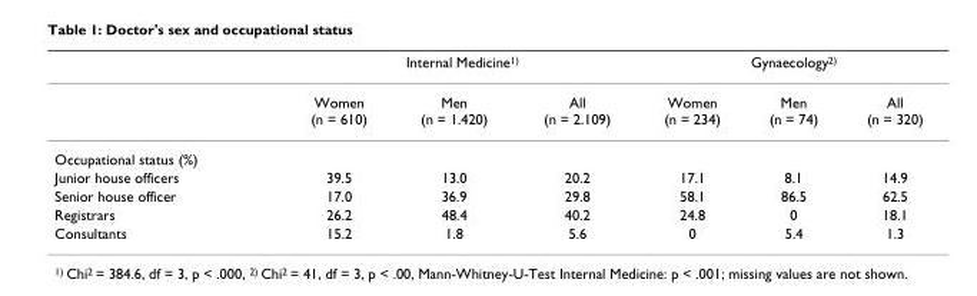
<table><thead><tr><td rowspan="2"></td><td colspan="3">Internal Medicine<sup>1)</sup></td><td colspan="3">Gynaecology<sup>2)</sup></td></tr><tr><td>Women (n = 610)</td><td>Men (n = 1.420)</td><td>All (n = 2.109)</td><td>Women (n = 234)</td><td>Men (n = 74)</td><td>All (n = 320)</td></tr></thead><tbody><tr><td colspan="7">Occupational status (%)</td></tr><tr><td>Junior house officers</td><td>39.5</td><td>13.0</td><td>20.2</td><td>17.1</td><td>8.1</td><td>14.9</td></tr><tr><td>Senior house officer</td><td>17.0</td><td>36.9</td><td>29.8</td><td>58.1</td><td>86.5</td><td>62.5</td></tr><tr><td>Registrars</td><td>26.2</td><td>48.4</td><td>40.2</td><td>24.8</td><td>0</td><td>18.1</td></tr><tr><td>Consultants</td><td>15.2</td><td>1.8</td><td>5.6</td><td>0</td><td>5.4</td><td>1.3</td></tr></tbody></table>